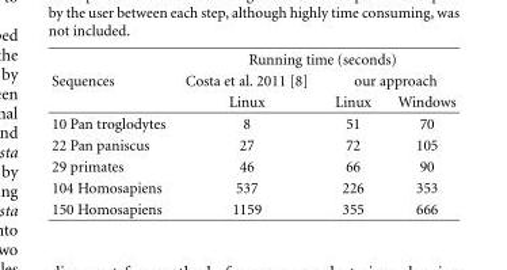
<table><thead><tr><td rowspan="3">Sequences</td><td colspan="3">Running time (seconds)</td></tr><tr><td rowspan="2">Costa et al. 2011 [8] Linux</td><td colspan="2">our approach</td></tr><tr><td>Linux</td><td>Windows</td></tr></thead><tbody><tr><td>10 Pan troglodytes</td><td>8</td><td>51</td><td>70</td></tr><tr><td>22 Pan paniscus</td><td>27</td><td>72</td><td>105</td></tr><tr><td>29 primates</td><td>46</td><td>66</td><td>90</td></tr><tr><td>104 Homosapiens</td><td>537</td><td>226</td><td>353</td></tr><tr><td>150 Homosapiens</td><td>1159</td><td>355</td><td>666</td></tr></tbody></table>